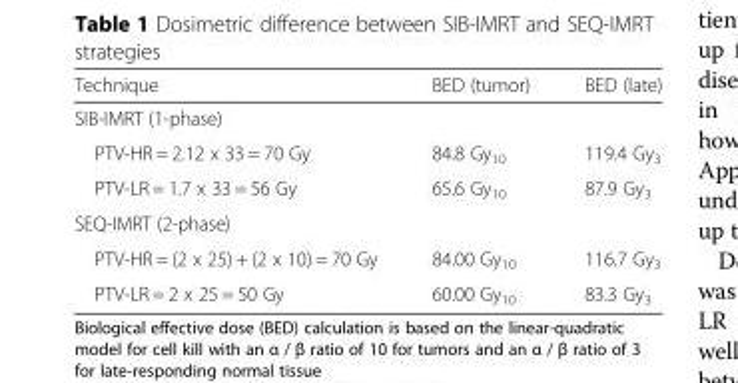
<table><thead><tr><td>Technique</td><td>BED (tumor)</td><td>BED (late)</td></tr></thead><tbody><tr><td colspan="3">SIB-IMRT (1-phase)</td></tr><tr><td>PTV-HR = 2.12 x 33 = 70 Gy</td><td>84.8 Gy<sub>10</sub></td><td>119.4 Gy<sub>3</sub></td></tr><tr><td>PTV-LR = 1.7 x 33 = 56 Gy</td><td>65.6 Gy<sub>10</sub></td><td>87.9 Gy<sub>3</sub></td></tr><tr><td colspan="3">SEQ-IMRT (2-phase)</td></tr><tr><td>PTV-HR = (2 x 25) + (2 x 10) = 70 Gy</td><td>84.00 Gy<sub>10</sub></td><td>116.7 Gy<sub>3</sub></td></tr><tr><td>PTV-LR = 2 x 25 = 50 Gy</td><td>60.00 Gy<sub>10</sub></td><td>83.3 Gy<sub>3</sub></td></tr></tbody></table>